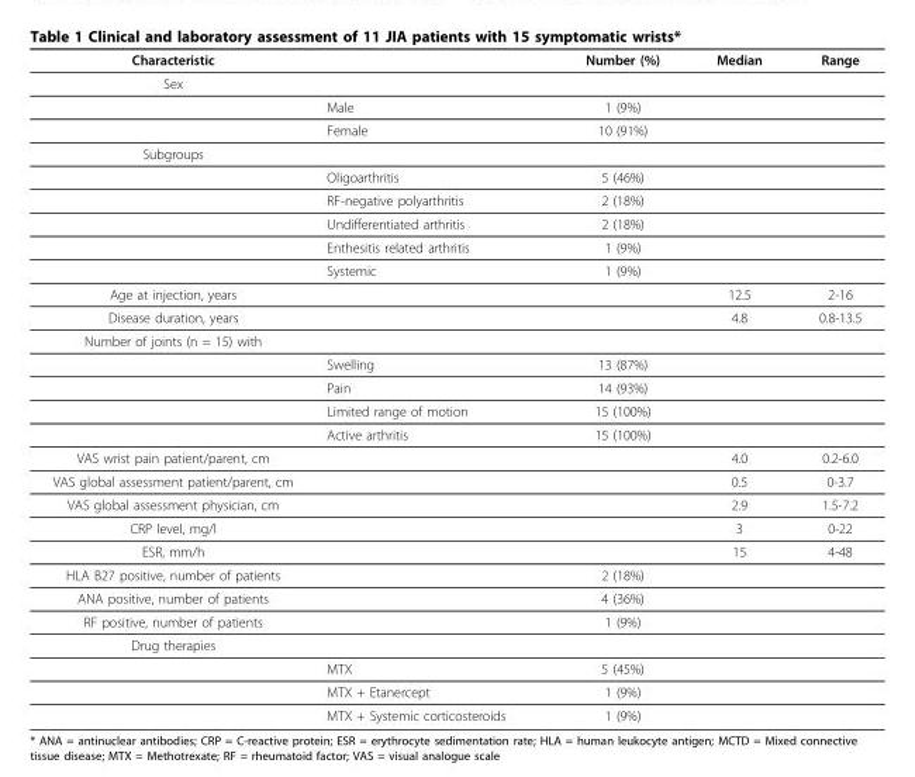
<table><thead><tr><td>Characteristic</td><td></td><td>Number (%)</td><td>Median</td><td>Range</td></tr></thead><tbody><tr><td colspan="5">Sex</td></tr><tr><td></td><td>Male</td><td>1 (9%)</td><td></td><td></td></tr><tr><td></td><td>Female</td><td>10 (91%)</td><td></td><td></td></tr><tr><td colspan="5">Subgroups</td></tr><tr><td></td><td>Oligoarthritis</td><td>5 (46%)</td><td></td><td></td></tr><tr><td></td><td>RF-negative polyarthritis</td><td>2 (18%)</td><td></td><td></td></tr><tr><td></td><td>Undifferentiated arthritis</td><td>2 (18%)</td><td></td><td></td></tr><tr><td></td><td>Enthesitis related arthritis</td><td>1 (9%)</td><td></td><td></td></tr><tr><td></td><td>Systemic</td><td>1 (9%)</td><td></td><td></td></tr><tr><td>Age at injection, years</td><td></td><td></td><td>12.5</td><td>2-16</td></tr><tr><td>Disease duration, years</td><td></td><td></td><td>4.8</td><td>0.8-13.5</td></tr><tr><td colspan="5">Number of joints (n = 15) with</td></tr><tr><td></td><td>Swelling</td><td>13 (87%)</td><td></td><td></td></tr><tr><td></td><td>Pain</td><td>14 (93%)</td><td></td><td></td></tr><tr><td></td><td>Limited range of motion</td><td>15 (100%)</td><td></td><td></td></tr><tr><td></td><td>Active arthritis</td><td>15 (100%)</td><td></td><td></td></tr><tr><td>VAS wrist pain patient/parent, cm</td><td></td><td></td><td>4.0</td><td>0.2-6.0</td></tr><tr><td>VAS global assessment patient/parent, cm</td><td></td><td></td><td>0.5</td><td>0-3.7</td></tr><tr><td>VAS global assessment physician, cm</td><td></td><td></td><td>2.9</td><td>1.5-7.2</td></tr><tr><td>CRP level, mg/l</td><td></td><td></td><td>3</td><td>0-22</td></tr><tr><td>ESR, mm/h</td><td></td><td></td><td>15</td><td>4-48</td></tr><tr><td>HLA B27 positive, number of patients</td><td></td><td>2 (18%)</td><td></td><td></td></tr><tr><td>ANA positive, number of patients</td><td></td><td>4 (36%)</td><td></td><td></td></tr><tr><td>RF positive, number of patients</td><td></td><td>1 (9%)</td><td></td><td></td></tr><tr><td colspan="5">Drug therapies</td></tr><tr><td></td><td>MTX</td><td>5 (45%)</td><td></td><td></td></tr><tr><td></td><td>MTX + Etanercept</td><td>1 (9%)</td><td></td><td></td></tr><tr><td></td><td>MTX + Systemic corticosteroids</td><td>1 (9%)</td><td></td><td></td></tr></tbody></table>